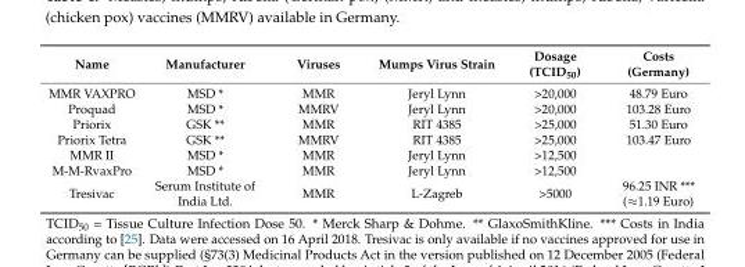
<table><thead><tr><td>Name</td><td>Manufacturer</td><td>Viruses</td><td>Mumps Virus Strain</td><td>Dosage (TCID<sub>50</sub>)</td><td>Costs (Germany)</td></tr></thead><tbody><tr><td>MMR VAXPRO</td><td>MSD *</td><td>MMR</td><td>Jeryl Lynn</td><td>&gt;20,000</td><td>48.79 Euro</td></tr><tr><td>Proquad</td><td>MSD *</td><td>MMRV</td><td>Jeryl Lynn</td><td>&gt;20,000</td><td>103.28 Euro</td></tr><tr><td>Priorix</td><td>GSK **</td><td>MMR</td><td>RIT 4385</td><td>&gt;25,000</td><td>51.30 Euro</td></tr><tr><td>Priorix Tetra</td><td>GSK **</td><td>MMRV</td><td>RIT 4385</td><td>&gt;25,000</td><td>103.47 Euro</td></tr><tr><td>MMR II</td><td>MSD *</td><td>MMR</td><td>Jeryl Lynn</td><td>&gt;12,500</td><td></td></tr><tr><td>M-M-RvaxPro</td><td>MSD *</td><td>MMR</td><td>Jeryl Lynn</td><td>&gt;12,500</td><td></td></tr><tr><td>Tresivac</td><td>Serum Institute of India Ltd.</td><td>MMR</td><td>L-Zagreb</td><td>&gt;5000</td><td>96.25 INR *** (≈1.19 Euro)</td></tr></tbody></table>